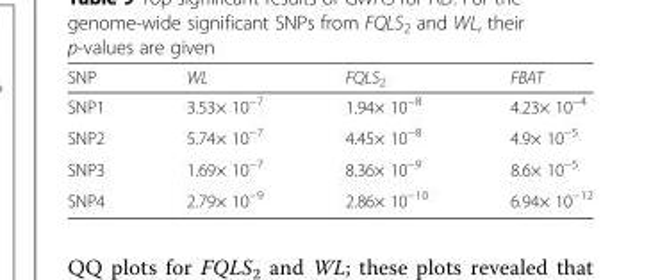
<table><thead><tr><td>SNP</td><td>WL</td><td>FQLS<sub>2</sub></td><td>FBAT</td></tr></thead><tbody><tr><td>SNP1</td><td>3.53× 10<sup>−7</sup></td><td>1.94× 10<sup>−8</sup></td><td>4.23× 10<sup>−4</sup></td></tr><tr><td>SNP2</td><td>5.74× 10<sup>−7</sup></td><td>4.45× 10<sup>−8</sup></td><td>4.9× 10<sup>−5</sup></td></tr><tr><td>SNP3</td><td>1.69× 10<sup>−7</sup></td><td>8.36× 10<sup>−9</sup></td><td>8.6× 10<sup>−5</sup></td></tr><tr><td>SNP4</td><td>2.79× 10<sup>−9</sup></td><td>2.86× 10<sup>−10</sup></td><td>6.94× 10<sup>−12</sup></td></tr></tbody></table>